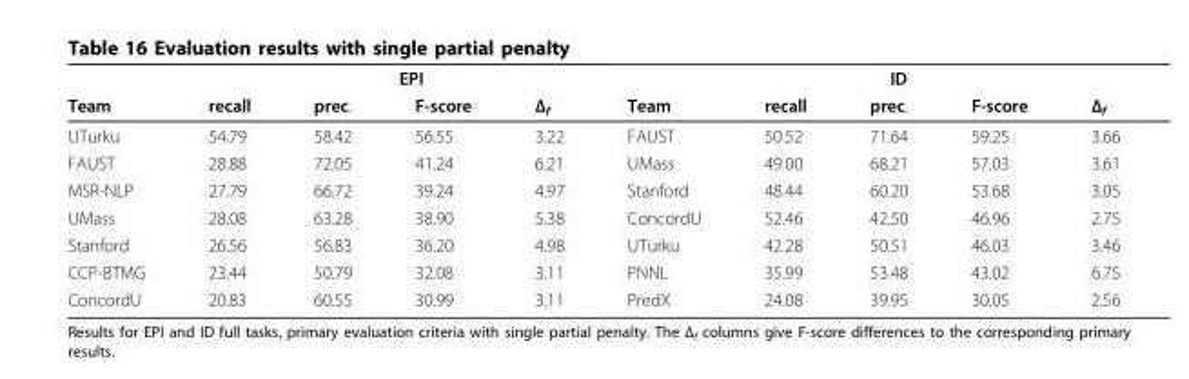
<table><thead><tr><td rowspan="2">Team</td><td colspan="4">EPI</td><td colspan="5">ID</td></tr><tr><td>recall</td><td>prec.</td><td>F-score</td><td>Δ<sub>f</sub></td><td>Team</td><td>recall</td><td>prec.</td><td>F-score</td><td>Δ<sub>f</sub></td></tr></thead><tbody><tr><td>UTurku</td><td>54.79</td><td>58.42</td><td>56.55</td><td>3.22</td><td>FAUST</td><td>50.52</td><td>71.64</td><td>59.25</td><td>3.66</td></tr><tr><td>FAUST</td><td>28.88</td><td>72.05</td><td>41.24</td><td>6.21</td><td>UMass</td><td>49.00</td><td>68.21</td><td>57.03</td><td>3.61</td></tr><tr><td>MSR-NLP</td><td>27.79</td><td>66.72</td><td>39.24</td><td>4.97</td><td>Stanford</td><td>48.44</td><td>60.20</td><td>53.68</td><td>3.05</td></tr><tr><td>UMass</td><td>28.08</td><td>63.28</td><td>38.90</td><td>5.38</td><td>ConcordU</td><td>52.46</td><td>42.50</td><td>46.96</td><td>2.75</td></tr><tr><td>Stanford</td><td>26.56</td><td>56.83</td><td>36.20</td><td>4.98</td><td>UTurku</td><td>42.28</td><td>50.51</td><td>46.03</td><td>3.46</td></tr><tr><td>CCP-BTMG</td><td>23.44</td><td>50.79</td><td>32.08</td><td>3.11</td><td>PNNL</td><td>35.99</td><td>53.48</td><td>43.02</td><td>6.75</td></tr><tr><td>ConcordU</td><td>20.83</td><td>60.55</td><td>30.99</td><td>3.11</td><td>PredX</td><td>24.08</td><td>39.95</td><td>30.05</td><td>2.56</td></tr></tbody></table>